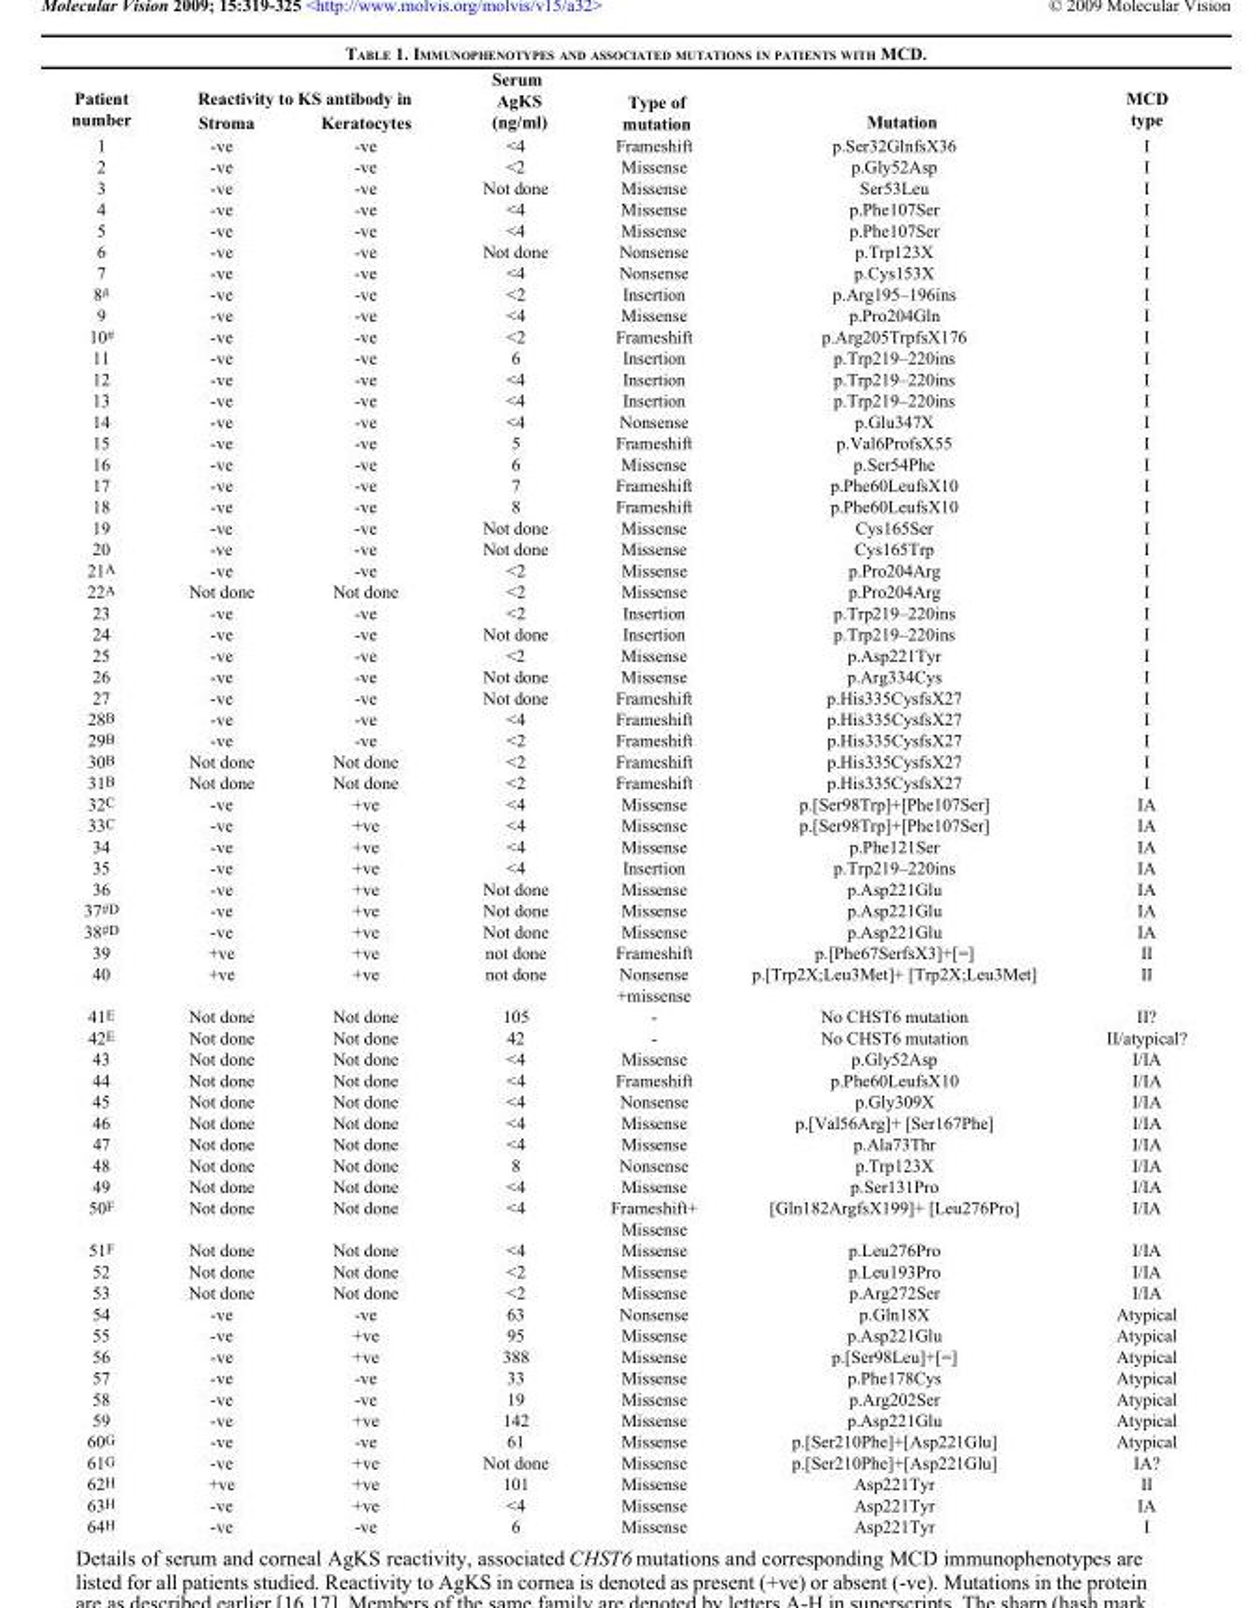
<table><thead><tr><td rowspan="2">Patient number</td><td colspan="2">Reactivity to KS antibody in</td><td rowspan="2">Serum AgKS (ng/ml)</td><td rowspan="2">Type of mutation</td><td rowspan="2">Mutation</td><td rowspan="2">MCD type</td></tr><tr><td>Stroma</td><td>Keratocytes</td></tr></thead><tbody><tr><td>1</td><td>-ve</td><td>-ve</td><td>&lt;4</td><td>Frameshift</td><td>p.Ser32GlnfsX36</td><td>I</td></tr><tr><td>2</td><td>-ve</td><td>-ve</td><td>&lt;2</td><td>Missense</td><td>p.Gly52Asp</td><td>I</td></tr><tr><td>3</td><td>-ve</td><td>-ve</td><td>Not done</td><td>Missense</td><td>Ser53Leu</td><td>I</td></tr><tr><td>4</td><td>-ve</td><td>-ve</td><td>&lt;4</td><td>Missense</td><td>p.Phe107Ser</td><td>I</td></tr><tr><td>5</td><td>-ve</td><td>-ve</td><td>&lt;4</td><td>Missense</td><td>p.Phe107Ser</td><td>I</td></tr><tr><td>6</td><td>-ve</td><td>-ve</td><td>Not done</td><td>Nonsense</td><td>p.Trp123X</td><td>I</td></tr><tr><td>7</td><td>-ve</td><td>-ve</td><td>&lt;4</td><td>Nonsense</td><td>p.Cys153X</td><td>I</td></tr><tr><td>8<sup>#</sup></td><td>-ve</td><td>-ve</td><td>&lt;2</td><td>Insertion</td><td>p.Arg195–196ins</td><td>I</td></tr><tr><td>9</td><td>-ve</td><td>-ve</td><td>&lt;4</td><td>Missense</td><td>p.Pro204Gln</td><td>I</td></tr><tr><td>10<sup>#</sup></td><td>-ve</td><td>-ve</td><td>&lt;2</td><td>Frameshift</td><td>p.Arg205TrpfsX176</td><td>I</td></tr><tr><td>11</td><td>-ve</td><td>-ve</td><td>6</td><td>Insertion</td><td>p.Trp219–220ins</td><td>I</td></tr><tr><td>12</td><td>-ve</td><td>-ve</td><td>&lt;4</td><td>Insertion</td><td>p.Trp219–220ins</td><td>I</td></tr><tr><td>13</td><td>-ve</td><td>-ve</td><td>&lt;4</td><td>Insertion</td><td>p.Trp219–220ins</td><td>I</td></tr><tr><td>14</td><td>-ve</td><td>-ve</td><td>&lt;4</td><td>Nonsense</td><td>p.Glu347X</td><td>I</td></tr><tr><td>15</td><td>-ve</td><td>-ve</td><td>5</td><td>Frameshift</td><td>p.Val6ProfsX55</td><td>I</td></tr><tr><td>16</td><td>-ve</td><td>-ve</td><td>6</td><td>Missense</td><td>p.Ser54Phe</td><td>I</td></tr><tr><td>17</td><td>-ve</td><td>-ve</td><td>7</td><td>Frameshift</td><td>p.Phe60LeufsX10</td><td>I</td></tr><tr><td>18</td><td>-ve</td><td>-ve</td><td>8</td><td>Frameshift</td><td>p.Phe60LeufsX10</td><td>I</td></tr><tr><td>19</td><td>-ve</td><td>-ve</td><td>Not done</td><td>Missense</td><td>Cys165Ser</td><td>I</td></tr><tr><td>20</td><td>-ve</td><td>-ve</td><td>Not done</td><td>Missense</td><td>Cys165Trp</td><td>I</td></tr><tr><td>21<sup>A</sup></td><td>-ve</td><td>-ve</td><td>&lt;2</td><td>Missense</td><td>p.Pro204Arg</td><td>I</td></tr><tr><td>22<sup>A</sup></td><td>Not done</td><td>Not done</td><td>&lt;2</td><td>Missense</td><td>p.Pro204Arg</td><td>I</td></tr><tr><td>23</td><td>-ve</td><td>-ve</td><td>&lt;2</td><td>Insertion</td><td>p.Trp219–220ins</td><td>I</td></tr><tr><td>24</td><td>-ve</td><td>-ve</td><td>Not done</td><td>Insertion</td><td>p.Trp219–220ins</td><td>I</td></tr><tr><td>25</td><td>-ve</td><td>-ve</td><td>&lt;2</td><td>Missense</td><td>p.Asp221Tyr</td><td>I</td></tr><tr><td>26</td><td>-ve</td><td>-ve</td><td>Not done</td><td>Missense</td><td>p.Arg334Cys</td><td>I</td></tr><tr><td>27</td><td>-ve</td><td>-ve</td><td>Not done</td><td>Frameshift</td><td>p.His335CysfsX27</td><td>I</td></tr><tr><td>28<sup>B</sup></td><td>-ve</td><td>-ve</td><td>&lt;4</td><td>Frameshift</td><td>p.His335CysfsX27</td><td>I</td></tr><tr><td>29<sup>B</sup></td><td>-ve</td><td>-ve</td><td>&lt;2</td><td>Frameshift</td><td>p.His335CysfsX27</td><td>I</td></tr><tr><td>30<sup>B</sup></td><td>Not done</td><td>Not done</td><td>&lt;2</td><td>Frameshift</td><td>p.His335CysfsX27</td><td>I</td></tr><tr><td>31<sup>B</sup></td><td>Not done</td><td>Not done</td><td>&lt;2</td><td>Frameshift</td><td>p.His335CysfsX27</td><td>I</td></tr><tr><td>32<sup>C</sup></td><td>-ve</td><td>+ve</td><td>&lt;4</td><td>Missense</td><td>p.[Ser98Trp]+[Phe107Ser]</td><td>IA</td></tr><tr><td>33<sup>C</sup></td><td>-ve</td><td>+ve</td><td>&lt;4</td><td>Missense</td><td>p.[Ser98Trp]+[Phe107Ser]</td><td>IA</td></tr><tr><td>34</td><td>-ve</td><td>+ve</td><td>&lt;4</td><td>Missense</td><td>p.Phe121Ser</td><td>IA</td></tr><tr><td>35</td><td>-ve</td><td>+ve</td><td>&lt;4</td><td>Insertion</td><td>p.Trp219–220ins</td><td>IA</td></tr><tr><td>36</td><td>-ve</td><td>+ve</td><td>Not done</td><td>Missense</td><td>p.Asp221Glu</td><td>IA</td></tr><tr><td>37<sup>#D</sup></td><td>-ve</td><td>+ve</td><td>Not done</td><td>Missense</td><td>p.Asp221Glu</td><td>IA</td></tr><tr><td>38<sup>#D</sup></td><td>-ve</td><td>+ve</td><td>Not done</td><td>Missense</td><td>p.Asp221Glu</td><td>IA</td></tr><tr><td>39</td><td>+ve</td><td>+ve</td><td>not done</td><td>Frameshift</td><td>p.[Phe67SerfsX3]+[=]</td><td>II</td></tr><tr><td>40</td><td>+ve</td><td>+ve</td><td>not done</td><td>Nonsense +missense</td><td>p.[Trp2X;Leu3Met]+ [Trp2X;Leu3Met]</td><td>II</td></tr><tr><td>41<sup>E</sup></td><td>Not done</td><td>Not done</td><td>105</td><td>-</td><td>No CHST6 mutation</td><td>II?</td></tr><tr><td>42<sup>E</sup></td><td>Not done</td><td>Not done</td><td>42</td><td>-</td><td>No CHST6 mutation</td><td>II/atypical?</td></tr><tr><td>43</td><td>Not done</td><td>Not done</td><td>&lt;4</td><td>Missense</td><td>p.Gly52Asp</td><td>I/IA</td></tr><tr><td>44</td><td>Not done</td><td>Not done</td><td>&lt;4</td><td>Frameshift</td><td>p.Phe60LeufsX10</td><td>I/IA</td></tr><tr><td>45</td><td>Not done</td><td>Not done</td><td>&lt;4</td><td>Nonsense</td><td>p.Gly309X</td><td>I/IA</td></tr><tr><td>46</td><td>Not done</td><td>Not done</td><td>&lt;4</td><td>Missense</td><td>p.[Val56Arg]+ [Ser167Phe]</td><td>I/IA</td></tr><tr><td>47</td><td>Not done</td><td>Not done</td><td>&lt;4</td><td>Missense</td><td>p.Ala73Thr</td><td>I/IA</td></tr><tr><td>48</td><td>Not done</td><td>Not done</td><td>8</td><td>Nonsense</td><td>p.Trp123X</td><td>I/IA</td></tr><tr><td>49</td><td>Not done</td><td>Not done</td><td>&lt;4</td><td>Missense</td><td>p.Ser131Pro</td><td>I/IA</td></tr><tr><td>50<sup>F</sup></td><td>Not done</td><td>Not done</td><td>&lt;4</td><td>Frameshift+ Missense</td><td>[Gln182ArgfsX199]+ [Leu276Pro]</td><td>I/IA</td></tr><tr><td>51<sup>F</sup></td><td>Not done</td><td>Not done</td><td>&lt;4</td><td>Missense</td><td>p.Leu276Pro</td><td>I/IA</td></tr><tr><td>52</td><td>Not done</td><td>Not done</td><td>&lt;2</td><td>Missense</td><td>p.Leu193Pro</td><td>I/IA</td></tr><tr><td>53</td><td>Not done</td><td>Not done</td><td>&lt;2</td><td>Missense</td><td>p.Arg272Ser</td><td>I/IA</td></tr><tr><td>54</td><td>-ve</td><td>-ve</td><td>63</td><td>Nonsense</td><td>p.Gln18X</td><td>Atypical</td></tr><tr><td>55</td><td>-ve</td><td>+ve</td><td>95</td><td>Missense</td><td>p.Asp221Glu</td><td>Atypical</td></tr><tr><td>56</td><td>-ve</td><td>+ve</td><td>388</td><td>Missense</td><td>p.[Ser98Leu]+[=]</td><td>Atypical</td></tr><tr><td>57</td><td>-ve</td><td>-ve</td><td>33</td><td>Missense</td><td>p.Phe178Cys</td><td>Atypical</td></tr><tr><td>58</td><td>-ve</td><td>-ve</td><td>19</td><td>Missense</td><td>p.Arg202Ser</td><td>Atypical</td></tr><tr><td>59</td><td>-ve</td><td>+ve</td><td>142</td><td>Missense</td><td>p.Asp221Glu</td><td>Atypical</td></tr><tr><td>60<sup>G</sup></td><td>-ve</td><td>-ve</td><td>61</td><td>Missense</td><td>p.[Ser210Phe]+[Asp221Glu]</td><td>Atypical</td></tr><tr><td>61<sup>G</sup></td><td>-ve</td><td>+ve</td><td>Not done</td><td>Missense</td><td>p.[Ser210Phe]+[Asp221Glu]</td><td>IA?</td></tr><tr><td>62<sup>H</sup></td><td>+ve</td><td>+ve</td><td>101</td><td>Missense</td><td>Asp221Tyr</td><td>II</td></tr><tr><td>63<sup>H</sup></td><td>-ve</td><td>+ve</td><td>&lt;4</td><td>Missense</td><td>Asp221Tyr</td><td>IA</td></tr><tr><td>64<sup>H</sup></td><td>-ve</td><td>-ve</td><td>6</td><td>Missense</td><td>Asp221Tyr</td><td>I</td></tr></tbody></table>